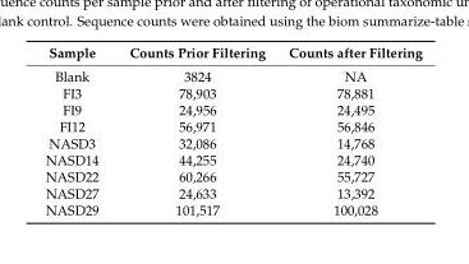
<table><thead><tr><td>Sample</td><td>Counts Prior Filtering</td><td>Counts after Filtering</td></tr></thead><tbody><tr><td>Blank</td><td>3824</td><td>NA</td></tr><tr><td>FI3</td><td>78,903</td><td>78,881</td></tr><tr><td>FI9</td><td>24,956</td><td>24,495</td></tr><tr><td>FI12</td><td>56,971</td><td>56,846</td></tr><tr><td>NASD3</td><td>32,086</td><td>14,768</td></tr><tr><td>NASD14</td><td>44,255</td><td>24,740</td></tr><tr><td>NASD22</td><td>60,266</td><td>55,727</td></tr><tr><td>NASD27</td><td>24,633</td><td>13,392</td></tr><tr><td>NASD29</td><td>101,517</td><td>100,028</td></tr></tbody></table>